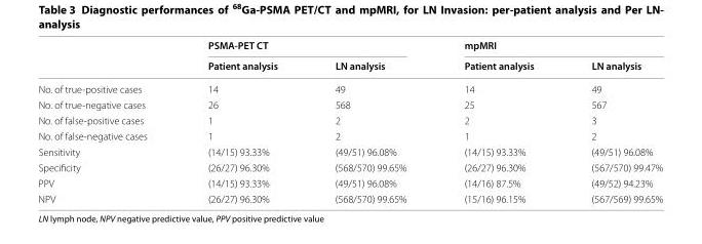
<table><thead><tr><td rowspan="2"></td><td colspan="2">PSMA-PET CT</td><td colspan="2">mpMRI</td></tr><tr><td>Patient analysis</td><td>LN analysis</td><td>Patient analysis</td><td>LN analysis</td></tr></thead><tbody><tr><td>No. of true-positive cases</td><td>14</td><td>49</td><td>14</td><td>49</td></tr><tr><td>No. of true-negative cases</td><td>26</td><td>568</td><td>25</td><td>567</td></tr><tr><td>No. of false-positive cases</td><td>1</td><td>2</td><td>2</td><td>3</td></tr><tr><td>No. of false-negative cases</td><td>1</td><td>2</td><td>1</td><td>2</td></tr><tr><td>Sensitivity</td><td>(14/15) 93.33%</td><td>(49/51) 96.08%</td><td>(14/15) 93.33%</td><td>(49/51) 96.08%</td></tr><tr><td>Specificity</td><td>(26/27) 96.30%</td><td>(568/570) 99.65%</td><td>(26/27) 96.30%</td><td>(567/570) 99.47%</td></tr><tr><td>PPV</td><td>(14/15) 93.33%</td><td>(49/51) 96.08%</td><td>(14/16) 87.5%</td><td>(49/52) 94.23%</td></tr><tr><td>NPV</td><td>(26/27) 96.30%</td><td>(568/570) 99.65%</td><td>(15/16) 96.15%</td><td>(567/569) 99.65%</td></tr></tbody></table>